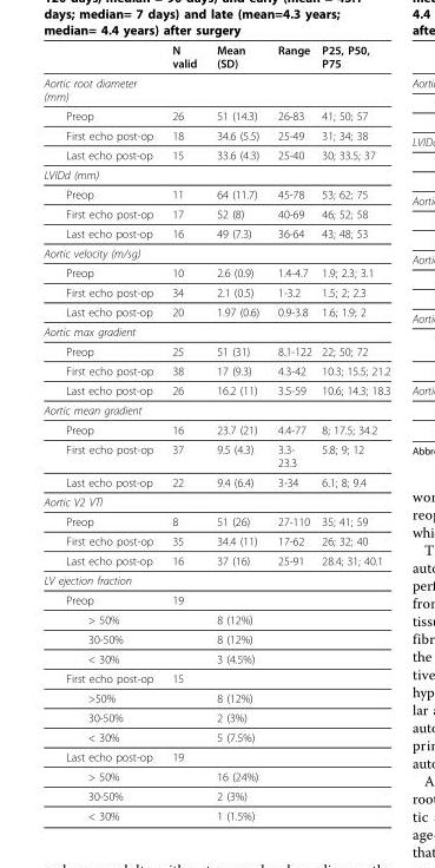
<table><thead><tr><td></td><td>N valid</td><td>Mean (SD)</td><td>Range</td><td>P25, P50, P75</td></tr></thead><tbody><tr><td colspan="5">Aortic root diameter (mm)</td></tr><tr><td>Preop</td><td>26</td><td>51 (14.3)</td><td>26-83</td><td>41; 50; 57</td></tr><tr><td>First echo post-op</td><td>18</td><td>34.6 (5.5)</td><td>25-49</td><td>31; 34; 38</td></tr><tr><td>Last echo post-op</td><td>15</td><td>33.6 (4.3)</td><td>25-40</td><td>30; 33.5; 37</td></tr><tr><td colspan="5">LVIDd (mm)</td></tr><tr><td>Preop</td><td>11</td><td>64 (11.7)</td><td>45-78</td><td>53; 62; 75</td></tr><tr><td>First echo post-op</td><td>17</td><td>52 (8)</td><td>40-69</td><td>46; 52; 58</td></tr><tr><td>Last echo post-op</td><td>16</td><td>49 (7.3)</td><td>36-64</td><td>43; 48; 53</td></tr><tr><td colspan="5">Aortic velocity (m/sg)</td></tr><tr><td>Preop</td><td>10</td><td>2.6 (0.9)</td><td>1.4-4.7</td><td>1.9; 2.3; 3.1</td></tr><tr><td>First echo post-op</td><td>34</td><td>2.1 (0.5)</td><td>1-3.2</td><td>1.5; 2; 2.3</td></tr><tr><td>Last echo post-op</td><td>20</td><td>1.97 (0.6)</td><td>0.9-3.8</td><td>1.6; 1.9; 2</td></tr><tr><td colspan="5">Aortic max gradient</td></tr><tr><td>Preop</td><td>25</td><td>51 (31)</td><td>8.1-122</td><td>22; 50; 72</td></tr><tr><td>First echo post-op</td><td>38</td><td>17 (9.3)</td><td>4.3-42</td><td>10.3; 15.5; 21.2</td></tr><tr><td>Last echo post-op</td><td>26</td><td>16.2 (11)</td><td>3.5-59</td><td>10.6; 14.3; 18.3</td></tr><tr><td colspan="5">Aortic mean gradient</td></tr><tr><td>Preop</td><td>16</td><td>23.7 (21)</td><td>4.4-77</td><td>8; 17.5; 34.2</td></tr><tr><td>First echo post-op</td><td>37</td><td>9.5 (4.3)</td><td>3.3- 23.3</td><td>5.8; 9; 12</td></tr><tr><td>Last echo post-op</td><td>22</td><td>9.4 (6.4)</td><td>3-34</td><td>6.1; 8; 9.4</td></tr><tr><td colspan="5">Aortic V2 VTI</td></tr><tr><td>Preop</td><td>8</td><td>51 (26)</td><td>27-110</td><td>35; 41; 59</td></tr><tr><td>First echo post-op</td><td>35</td><td>34.4 (11)</td><td>17-62</td><td>26; 32; 40</td></tr><tr><td>Last echo post-op</td><td>16</td><td>37 (16)</td><td>25-91</td><td>28.4; 31; 40.1</td></tr><tr><td colspan="5">LV ejection fraction</td></tr><tr><td>Preop</td><td>19</td><td></td><td></td><td></td></tr><tr><td>&gt; 50%</td><td></td><td>8 (12%)</td><td></td><td></td></tr><tr><td>30-50%</td><td></td><td>8 (12%)</td><td></td><td></td></tr><tr><td>&lt; 30%</td><td></td><td>3 (4.5%)</td><td></td><td></td></tr><tr><td>First echo post-op</td><td>15</td><td></td><td></td><td></td></tr><tr><td>&gt;50%</td><td></td><td>8 (12%)</td><td></td><td></td></tr><tr><td>30-50%</td><td></td><td>2 (3%)</td><td></td><td></td></tr><tr><td>&lt; 30%</td><td></td><td>5 (7.5%)</td><td></td><td></td></tr><tr><td>Last echo post-op</td><td>19</td><td></td><td></td><td></td></tr><tr><td>&gt; 50%</td><td></td><td>16 (24%)</td><td></td><td></td></tr><tr><td>30-50%</td><td></td><td>2 (3%)</td><td></td><td></td></tr><tr><td>&lt; 30%</td><td></td><td>1 (1.5%)</td><td></td><td></td></tr></tbody></table>